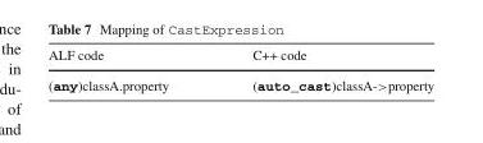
<table><thead><tr><td>ALF code</td><td>C++ code</td></tr></thead><tbody><tr><td>(any)classA.property</td><td>(auto_cast)classA-&gt;property</td></tr></tbody></table>